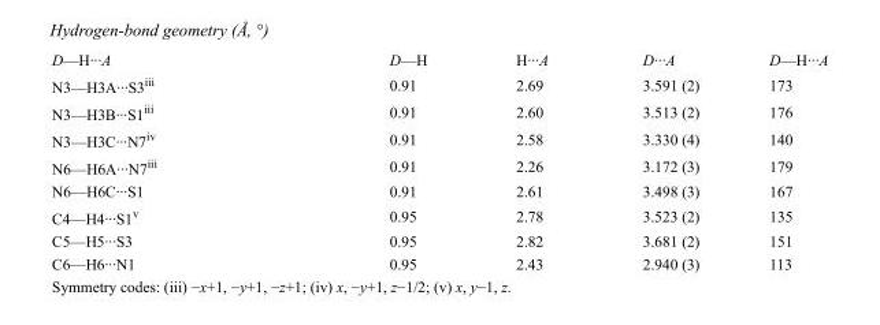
<table><tbody><tr><td>D—H···A</td><td>D—H</td><td>H···A</td><td>D···A</td><td>D—H···A</td></tr><tr><td>N3—H3A···S3<sup>iii</sup></td><td>0.91</td><td>2.69</td><td>3.591 (2)</td><td>173</td></tr><tr><td>N3—H3B···S1<sup>iii</sup></td><td>0.91</td><td>2.60</td><td>3.513 (2)</td><td>176</td></tr><tr><td>N3—H3C···N7<sup>iv</sup></td><td>0.91</td><td>2.58</td><td>3.330 (4)</td><td>140</td></tr><tr><td>N6—H6A···N7<sup>iii</sup></td><td>0.91</td><td>2.26</td><td>3.172 (3)</td><td>179</td></tr><tr><td>N6—H6C···S1</td><td>0.91</td><td>2.61</td><td>3.498 (3)</td><td>167</td></tr><tr><td>C4—H4···S1<sup>v</sup></td><td>0.95</td><td>2.78</td><td>3.523 (2)</td><td>135</td></tr><tr><td>C5—H5···S3</td><td>0.95</td><td>2.82</td><td>3.681 (2)</td><td>151</td></tr><tr><td>C6—H6···N1</td><td>0.95</td><td>2.43</td><td>2.940 (3)</td><td>113</td></tr></tbody></table>